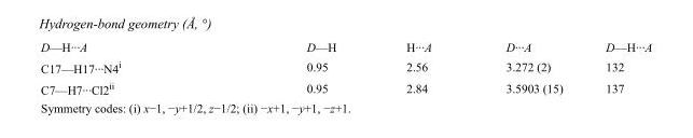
<table><tbody><tr><td>D—H···A</td><td>D—H</td><td>H···A</td><td>D···A</td><td>D—H···A</td></tr><tr><td>C17—H17···N4<sup>i</sup></td><td>0.95</td><td>2.56</td><td>3.272 (2)</td><td>132</td></tr><tr><td>C7—H7···Cl2<sup>ii</sup></td><td>0.95</td><td>2.84</td><td>3.5903 (15)</td><td>137</td></tr></tbody></table>